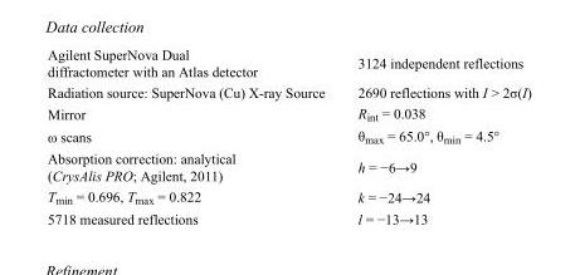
<table><tbody><tr><td>Agilent SuperNova Dual diffractometer with an Atlas detector</td><td>3124 independent reflections</td></tr><tr><td>Radiation source: SuperNova (Cu) X-ray Source</td><td>2690 reflections with I &gt; 2σ(I)</td></tr><tr><td>Mirror</td><td>R<sub>int</sub> = 0.038</td></tr><tr><td>ω scans</td><td>θ<sub>max</sub> = 65.0°, θ<sub>min</sub> = 4.5°</td></tr><tr><td>Absorption correction: analytical (CrysAlis PRO; Agilent, 2011)</td><td>h = −6→9</td></tr><tr><td>T<sub>min</sub> = 0.696, T<sub>max</sub> = 0.822</td><td>k = −24→24</td></tr><tr><td>5718 measured reflections</td><td>l = −13→13</td></tr></tbody></table>